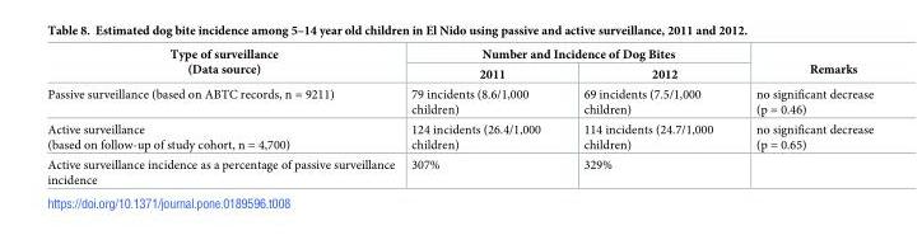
<table><thead><tr><td rowspan="2">Type of surveillance (Data source)</td><td colspan="2">Number and Incidence of Dog Bites</td><td rowspan="2">Remarks</td></tr><tr><td>2011</td><td>2012</td></tr></thead><tbody><tr><td>Passive surveillance (based on ABTC records, n = 9211)</td><td>79 incidents (8.6/1,000 children)</td><td>69 incidents (7.5/1,000 children)</td><td>no significant decrease (p = 0.46)</td></tr><tr><td>Active surveillance (based on follow-up of study cohort, n = 4,700)</td><td>124 incidents (26.4/1,000 children)</td><td>114 incidents (24.7/1,000 children)</td><td>no significant decrease (p = 0.65)</td></tr><tr><td>Active surveillance incidence as a percentage of passive surveillance incidence</td><td>307%</td><td>329%</td><td></td></tr></tbody></table>